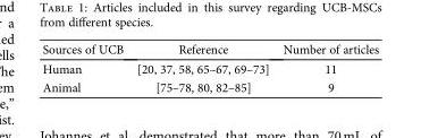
<table><thead><tr><td>Sources of UCB</td><td>Reference</td><td>Number of articles</td></tr></thead><tbody><tr><td>Human</td><td>[20, 37, 58, 65–67, 69–73]</td><td>11</td></tr><tr><td>Animal</td><td>[75–78, 80, 82–85]</td><td>9</td></tr></tbody></table>